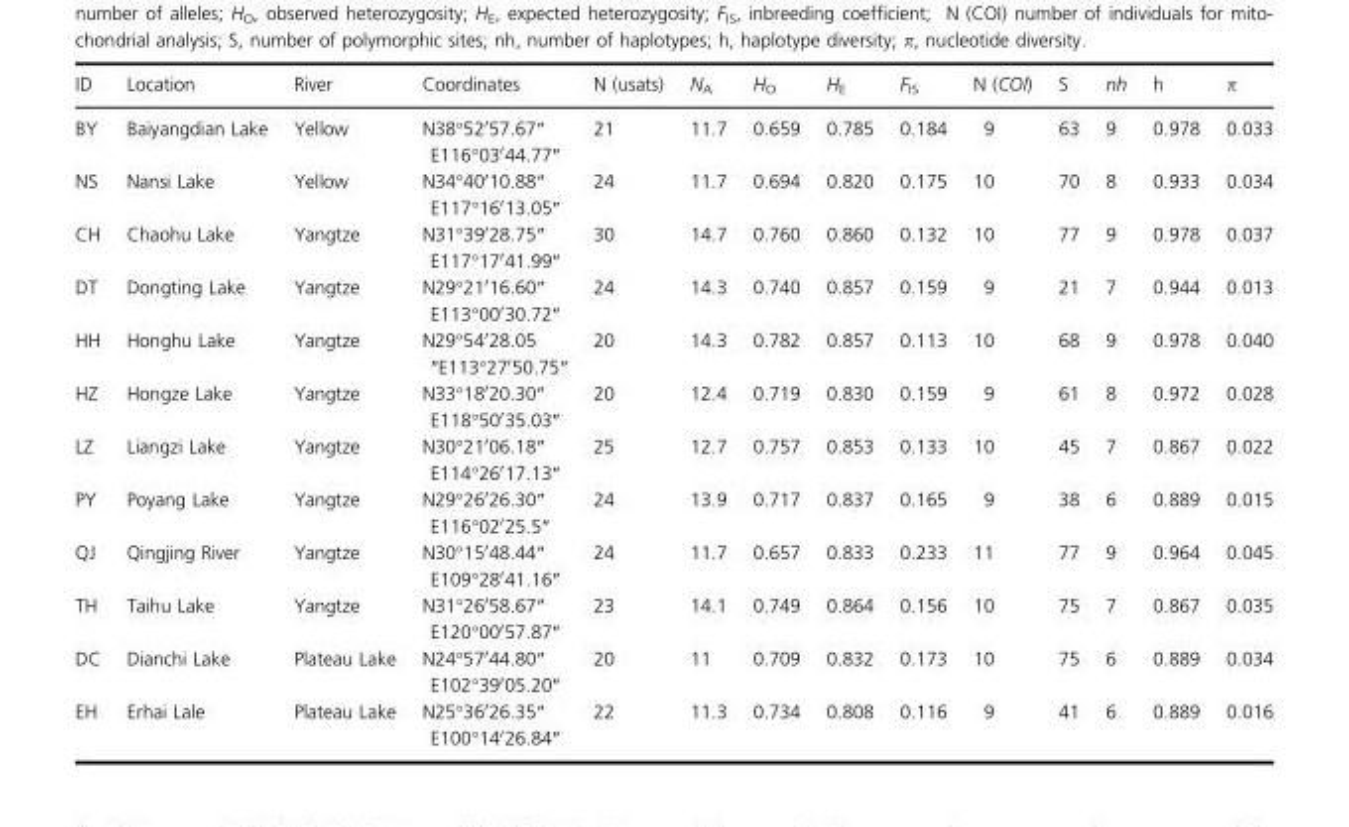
<table><thead><tr><td>ID</td><td>Location</td><td>River</td><td>Coordinates</td><td>N (usats)</td><td>N<sub>A</sub></td><td>H<sub>O</sub></td><td>H<sub>E</sub></td><td>F<sub>IS</sub></td><td>N (COI)</td><td>S</td><td>nh</td><td>h</td><td>π</td></tr></thead><tbody><tr><td>BY</td><td>Baiyangdian Lake</td><td>Yellow</td><td>N38°52′57.67″ E116°03′44.77″</td><td>21</td><td>11.7</td><td>0.659</td><td>0.785</td><td>0.184</td><td>9</td><td>63</td><td>9</td><td>0.978</td><td>0.033</td></tr><tr><td>NS</td><td>Nansi Lake</td><td>Yellow</td><td>N34°40′10.88″ E117°16′13.05″</td><td>24</td><td>11.7</td><td>0.694</td><td>0.820</td><td>0.175</td><td>10</td><td>70</td><td>8</td><td>0.933</td><td>0.034</td></tr><tr><td>CH</td><td>Chaohu Lake</td><td>Yangtze</td><td>N31°39′28.75″ E117°17′41.99″</td><td>30</td><td>14.7</td><td>0.760</td><td>0.860</td><td>0.132</td><td>10</td><td>77</td><td>9</td><td>0.978</td><td>0.037</td></tr><tr><td>DT</td><td>Dongting Lake</td><td>Yangtze</td><td>N29°21′16.60″ E113°00′30.72″</td><td>24</td><td>14.3</td><td>0.740</td><td>0.857</td><td>0.159</td><td>9</td><td>21</td><td>7</td><td>0.944</td><td>0.013</td></tr><tr><td>HH</td><td>Honghu Lake</td><td>Yangtze</td><td>N29°54′28.05 ″E113°27′50.75″</td><td>20</td><td>14.3</td><td>0.782</td><td>0.857</td><td>0.113</td><td>10</td><td>68</td><td>9</td><td>0.978</td><td>0.040</td></tr><tr><td>HZ</td><td>Hongze Lake</td><td>Yangtze</td><td>N33°18′20.30″ E118°50′35.03″</td><td>20</td><td>12.4</td><td>0.719</td><td>0.830</td><td>0.159</td><td>9</td><td>61</td><td>8</td><td>0.972</td><td>0.028</td></tr><tr><td>LZ</td><td>Liangzi Lake</td><td>Yangtze</td><td>N30°21′06.18″ E114°26′17.13″</td><td>25</td><td>12.7</td><td>0.757</td><td>0.853</td><td>0.133</td><td>10</td><td>45</td><td>7</td><td>0.867</td><td>0.022</td></tr><tr><td>PY</td><td>Poyang Lake</td><td>Yangtze</td><td>N29°26′26.30″ E116°02′25.5″</td><td>24</td><td>13.9</td><td>0.717</td><td>0.837</td><td>0.165</td><td>9</td><td>38</td><td>6</td><td>0.889</td><td>0.015</td></tr><tr><td>QJ</td><td>Qingjing River</td><td>Yangtze</td><td>N30°15′48.44″ E109°28′41.16″</td><td>24</td><td>11.7</td><td>0.657</td><td>0.833</td><td>0.233</td><td>11</td><td>77</td><td>9</td><td>0.964</td><td>0.045</td></tr><tr><td>TH</td><td>Taihu Lake</td><td>Yangtze</td><td>N31°26′58.67″ E120°00′57.87″</td><td>23</td><td>14.1</td><td>0.749</td><td>0.864</td><td>0.156</td><td>10</td><td>75</td><td>7</td><td>0.867</td><td>0.035</td></tr><tr><td>DC</td><td>Dianchi Lake</td><td>Plateau Lake</td><td>N24°57′44.80″ E102°39′05.20″</td><td>20</td><td>11</td><td>0.709</td><td>0.832</td><td>0.173</td><td>10</td><td>75</td><td>6</td><td>0.889</td><td>0.034</td></tr><tr><td>EH</td><td>Erhai Lale</td><td>Plateau Lake</td><td>N25°36′26.35″ E100°14′26.84″</td><td>22</td><td>11.3</td><td>0.734</td><td>0.808</td><td>0.116</td><td>9</td><td>41</td><td>6</td><td>0.889</td><td>0.016</td></tr></tbody></table>